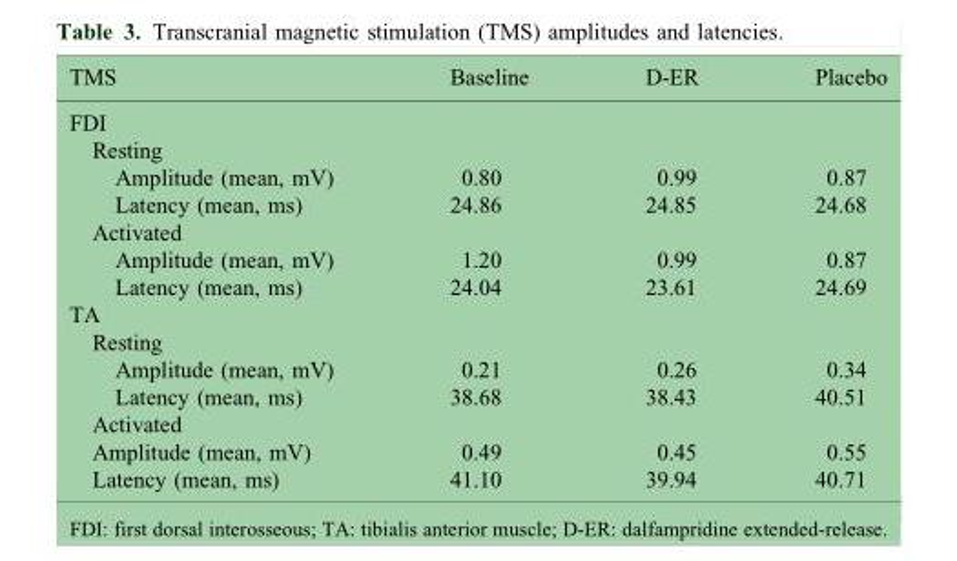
<table><thead><tr><td>TMS</td><td>Baseline</td><td>D-ER</td><td>Placebo</td></tr></thead><tbody><tr><td colspan="4">FDI</td></tr><tr><td colspan="4">Resting</td></tr><tr><td>Amplitude (mean, mV)</td><td>0.80</td><td>0.99</td><td>0.87</td></tr><tr><td>Latency (mean, ms)</td><td>24.86</td><td>24.85</td><td>24.68</td></tr><tr><td colspan="4">Activated</td></tr><tr><td>Amplitude (mean, mV)</td><td>1.20</td><td>0.99</td><td>0.87</td></tr><tr><td>Latency (mean, ms)</td><td>24.04</td><td>23.61</td><td>24.69</td></tr><tr><td colspan="4">TA</td></tr><tr><td colspan="4">Resting</td></tr><tr><td>Amplitude (mean, mV)</td><td>0.21</td><td>0.26</td><td>0.34</td></tr><tr><td>Latency (mean, ms)</td><td>38.68</td><td>38.43</td><td>40.51</td></tr><tr><td colspan="4">Activated</td></tr><tr><td>Amplitude (mean, mV)</td><td>0.49</td><td>0.45</td><td>0.55</td></tr><tr><td>Latency (mean, ms)</td><td>41.10</td><td>39.94</td><td>40.71</td></tr></tbody></table>